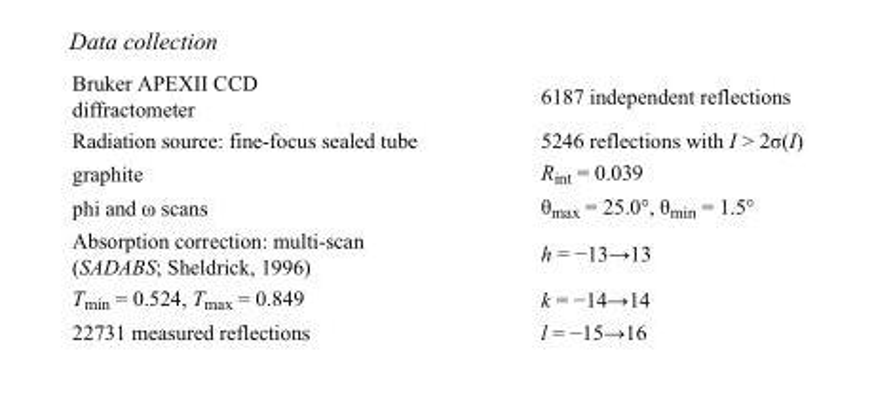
<table><tbody><tr><td>Bruker APEXII CCD diffractometer</td><td>6187 independent reflections</td></tr><tr><td>Radiation source: fine-focus sealed tube</td><td>5246 reflections with I &gt; 2σ(I)</td></tr><tr><td>graphite</td><td>R<sub>int</sub> = 0.039</td></tr><tr><td>phi and ω scans</td><td>θ<sub>max</sub> = 25.0°, θ<sub>min</sub> = 1.5°</td></tr><tr><td>Absorption correction: multi-scan (SADABS; Sheldrick, 1996)</td><td>h = −13→13</td></tr><tr><td>T<sub>min</sub> = 0.524, T<sub>max</sub> = 0.849</td><td>k = −14→14</td></tr><tr><td>22731 measured reflections</td><td>l = −15→16</td></tr></tbody></table>